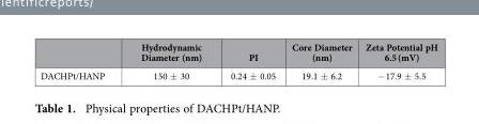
<table><thead><tr><td></td><td>Hydrodynamic Diameter (nm)</td><td>PI</td><td>Core Diameter (nm)</td><td>Zeta Potential pH 6.5 (mV)</td></tr></thead><tbody><tr><td>DACHPt/HANP</td><td>150 ± 30</td><td>0.24 ± 0.05</td><td>19.1 ± 6.2</td><td>− 17.9 ± 5.5</td></tr></tbody></table>